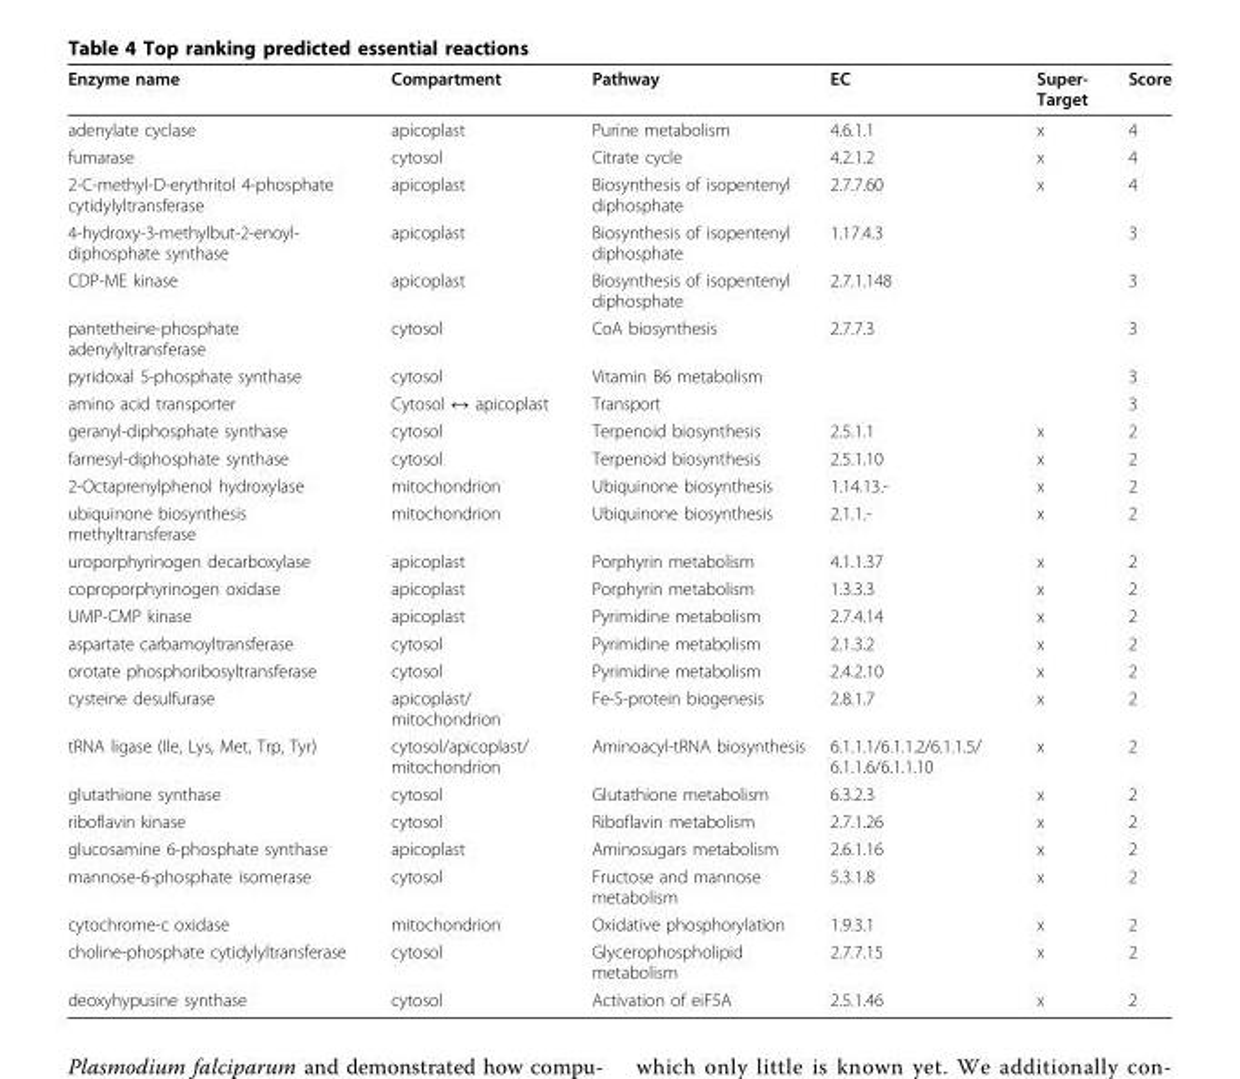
<table><thead><tr><td>Enzyme name</td><td>Compartment</td><td>Pathway</td><td>EC</td><td>Super- Target</td><td>Score</td></tr></thead><tbody><tr><td>adenylate cyclase</td><td>apicoplast</td><td>Purine metabolism</td><td>4.6.1.1</td><td>x</td><td>4</td></tr><tr><td>fumarase</td><td>cytosol</td><td>Citrate cycle</td><td>4.2.1.2</td><td>x</td><td>4</td></tr><tr><td>2-C-methyl-D-erythritol 4-phosphate cytidylyltransferase</td><td>apicoplast</td><td>Biosynthesis of isopentenyl diphosphate</td><td>2.7.7.60</td><td>x</td><td>4</td></tr><tr><td>4-hydroxy-3-methylbut-2-enoyl- diphosphate synthase</td><td>apicoplast</td><td>Biosynthesis of isopentenyl diphosphate</td><td>1.17.4.3</td><td></td><td>3</td></tr><tr><td>CDP-ME kinase</td><td>apicoplast</td><td>Biosynthesis of isopentenyl diphosphate</td><td>2.7.1.148</td><td></td><td>3</td></tr><tr><td>pantetheine-phosphate adenylyltransferase</td><td>cytosol</td><td>CoA biosynthesis</td><td>2.7.7.3</td><td></td><td>3</td></tr><tr><td>pyridoxal 5-phosphate synthase</td><td>cytosol</td><td>Vitamin B6 metabolism</td><td></td><td></td><td>3</td></tr><tr><td>amino acid transporter</td><td>Cytosol ↔ apicoplast</td><td>Transport</td><td></td><td></td><td>3</td></tr><tr><td>geranyl-diphosphate synthase</td><td>cytosol</td><td>Terpenoid biosynthesis</td><td>2.5.1.1</td><td>x</td><td>2</td></tr><tr><td>farnesyl-diphosphate synthase</td><td>cytosol</td><td>Terpenoid biosynthesis</td><td>2.5.1.10</td><td>x</td><td>2</td></tr><tr><td>2-Octaprenylphenol hydroxylase</td><td>mitochondrion</td><td>Ubiquinone biosynthesis</td><td>1.14.13.-</td><td>x</td><td>2</td></tr><tr><td>ubiquinone biosynthesis methyltransferase</td><td>mitochondrion</td><td>Ubiquinone biosynthesis</td><td>2.1.1.-</td><td>x</td><td>2</td></tr><tr><td>uroporphyrinogen decarboxylase</td><td>apicoplast</td><td>Porphyrin metabolism</td><td>4.1.1.37</td><td>x</td><td>2</td></tr><tr><td>coproporphyrinogen oxidase</td><td>apicoplast</td><td>Porphyrin metabolism</td><td>1.3.3.3</td><td>x</td><td>2</td></tr><tr><td>UMP-CMP kinase</td><td>apicoplast</td><td>Pyrimidine metabolism</td><td>2.7.4.14</td><td>x</td><td>2</td></tr><tr><td>aspartate carbamoyltransferase</td><td>cytosol</td><td>Pyrimidine metabolism</td><td>2.1.3.2</td><td>x</td><td>2</td></tr><tr><td>orotate phosphoribosyltransferase</td><td>cytosol</td><td>Pyrimidine metabolism</td><td>2.4.2.10</td><td>x</td><td>2</td></tr><tr><td>cysteine desulfurase</td><td>apicoplast/ mitochondrion</td><td>Fe-S-protein biogenesis</td><td>2.8.1.7</td><td>x</td><td>2</td></tr><tr><td>tRNA ligase (Ile, Lys, Met, Trp, Tyr)</td><td>cytosol/apicoplast/ mitochondrion</td><td>Aminoacyl-tRNA biosynthesis</td><td>6.1.1.1/6.1.1.2/6.1.1.5/ 6.1.1.6/6.1.1.10</td><td>x</td><td>2</td></tr><tr><td>glutathione synthase</td><td>cytosol</td><td>Glutathione metabolism</td><td>6.3.2.3</td><td>x</td><td>2</td></tr><tr><td>riboflavin kinase</td><td>cytosol</td><td>Riboflavin metabolism</td><td>2.7.1.26</td><td>x</td><td>2</td></tr><tr><td>glucosamine 6-phosphate synthase</td><td>apicoplast</td><td>Aminosugars metabolism</td><td>2.6.1.16</td><td>x</td><td>2</td></tr><tr><td>mannose-6-phosphate isomerase</td><td>cytosol</td><td>Fructose and mannose metabolism</td><td>5.3.1.8</td><td>x</td><td>2</td></tr><tr><td>cytochrome-c oxidase</td><td>mitochondrion</td><td>Oxidative phosphorylation</td><td>1.9.3.1</td><td>x</td><td>2</td></tr><tr><td>choline-phosphate cytidylyltransferase</td><td>cytosol</td><td>Glycerophospholipid metabolism</td><td>2.7.7.15</td><td>x</td><td>2</td></tr><tr><td>deoxyhypusine synthase</td><td>cytosol</td><td>Activation of eiF5A</td><td>2.5.1.46</td><td>x</td><td>2</td></tr></tbody></table>